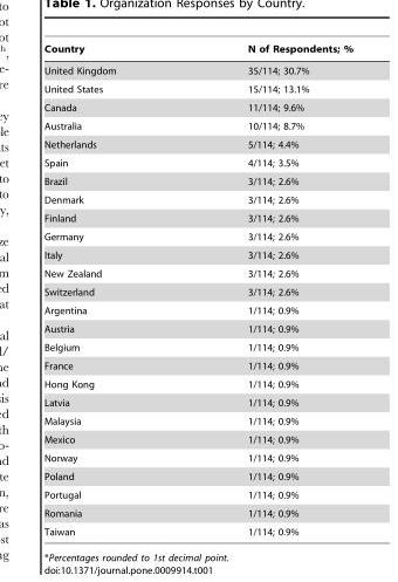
<table><thead><tr><td>Country</td><td>N of Respondents; %</td></tr></thead><tbody><tr><td>United Kingdom</td><td>35/114; 30.7%</td></tr><tr><td>United States</td><td>15/114; 13.1%</td></tr><tr><td>Canada</td><td>11/114; 9.6%</td></tr><tr><td>Australia</td><td>10/114; 8.7%</td></tr><tr><td>Netherlands</td><td>5/114; 4.4%</td></tr><tr><td>Spain</td><td>4/114; 3.5%</td></tr><tr><td>Brazil</td><td>3/114; 2.6%</td></tr><tr><td>Denmark</td><td>3/114; 2.6%</td></tr><tr><td>Finland</td><td>3/114; 2.6%</td></tr><tr><td>Germany</td><td>3/114; 2.6%</td></tr><tr><td>Italy</td><td>3/114; 2.6%</td></tr><tr><td>New Zealand</td><td>3/114; 2.6%</td></tr><tr><td>Switzerland</td><td>3/114; 2.6%</td></tr><tr><td>Argentina</td><td>1/114; 0.9%</td></tr><tr><td>Austria</td><td>1/114; 0.9%</td></tr><tr><td>Belgium</td><td>1/114; 0.9%</td></tr><tr><td>France</td><td>1/114; 0.9%</td></tr><tr><td>Hong Kong</td><td>1/114; 0.9%</td></tr><tr><td>Latvia</td><td>1/114; 0.9%</td></tr><tr><td>Malaysia</td><td>1/114; 0.9%</td></tr><tr><td>Mexico</td><td>1/114; 0.9%</td></tr><tr><td>Norway</td><td>1/114; 0.9%</td></tr><tr><td>Poland</td><td>1/114; 0.9%</td></tr><tr><td>Portugal</td><td>1/114; 0.9%</td></tr><tr><td>Romania</td><td>1/114; 0.9%</td></tr><tr><td>Taiwan</td><td>1/114; 0.9%</td></tr></tbody></table>